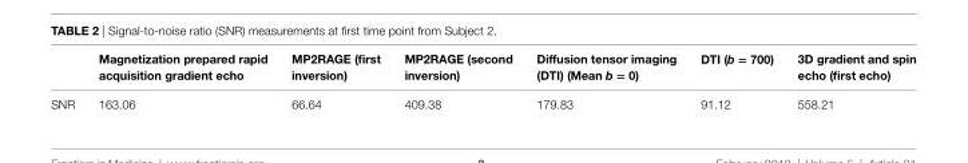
<table><thead><tr><td></td><td>Magnetization prepared rapid acquisition gradient echo</td><td>MP2rage (first inversion)</td><td>MP2rage (second inversion)</td><td>Diffusion tensor imaging (DTi) (Mean b = 0)</td><td>DTi (b = 700)</td><td>3D gradient and spin echo (first echo)</td></tr></thead><tbody><tr><td>SNR</td><td>163.06</td><td>66.64</td><td>409.38</td><td>179.83</td><td>91.12</td><td>558.21</td></tr></tbody></table>